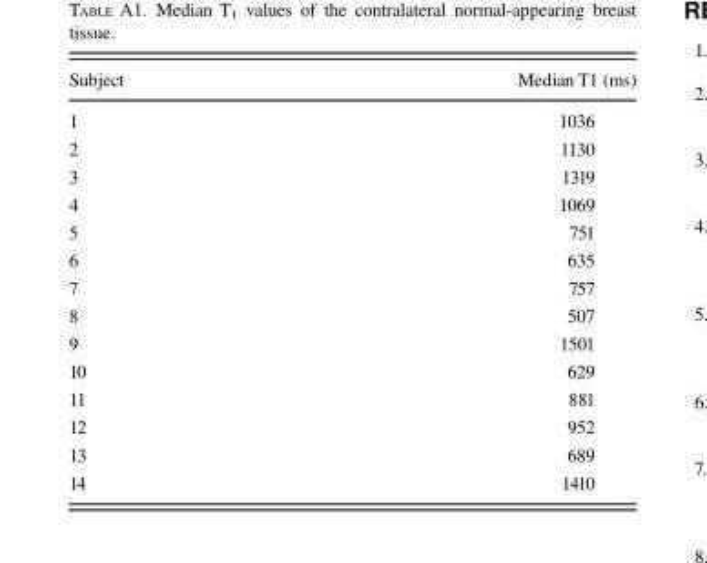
<table><thead><tr><td>Subject</td><td>Median T1 (ms)</td></tr></thead><tbody><tr><td>1</td><td>1036</td></tr><tr><td>2</td><td>1130</td></tr><tr><td>3</td><td>1319</td></tr><tr><td>4</td><td>1069</td></tr><tr><td>5</td><td>751</td></tr><tr><td>6</td><td>635</td></tr><tr><td>7</td><td>757</td></tr><tr><td>8</td><td>507</td></tr><tr><td>9</td><td>1501</td></tr><tr><td>10</td><td>629</td></tr><tr><td>11</td><td>881</td></tr><tr><td>12</td><td>952</td></tr><tr><td>13</td><td>689</td></tr><tr><td>14</td><td>1410</td></tr></tbody></table>